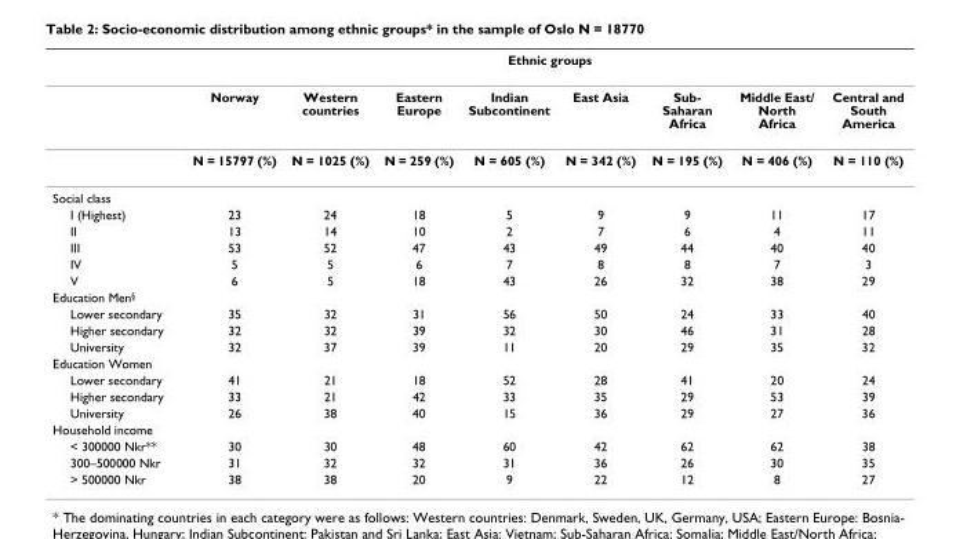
<table><thead><tr><td rowspan="2"></td><td colspan="8">Ethnic groups</td></tr><tr><td>Norway</td><td>Western countries</td><td>Eastern Europe</td><td>Indian Subcontinent</td><td>East Asia</td><td>Sub- Saharan Africa</td><td>Middle East/ North Africa</td><td>Central and South America</td></tr></thead><tbody><tr><td></td><td>N = 15797 (%)</td><td>N = 1025 (%)</td><td>N = 259 (%)</td><td>N = 605 (%)</td><td>N = 342 (%)</td><td>N = 195 (%)</td><td>N = 406 (%)</td><td>N = 110 (%)</td></tr><tr><td colspan="9">Social class</td></tr><tr><td>I (Highest)</td><td>23</td><td>24</td><td>18</td><td>5</td><td>9</td><td>9</td><td>11</td><td>17</td></tr><tr><td>II</td><td>13</td><td>14</td><td>10</td><td>2</td><td>7</td><td>6</td><td>4</td><td>11</td></tr><tr><td>III</td><td>53</td><td>52</td><td>47</td><td>43</td><td>49</td><td>44</td><td>40</td><td>40</td></tr><tr><td>IV</td><td>5</td><td>5</td><td>6</td><td>7</td><td>8</td><td>8</td><td>7</td><td>3</td></tr><tr><td>V</td><td>6</td><td>5</td><td>18</td><td>43</td><td>26</td><td>32</td><td>38</td><td>29</td></tr><tr><td colspan="9">Education Men<sup>§</sup></td></tr><tr><td>Lower secondary</td><td>35</td><td>32</td><td>31</td><td>56</td><td>50</td><td>24</td><td>33</td><td>40</td></tr><tr><td>Higher secondary</td><td>32</td><td>32</td><td>39</td><td>32</td><td>30</td><td>46</td><td>31</td><td>28</td></tr><tr><td>University</td><td>32</td><td>37</td><td>39</td><td>11</td><td>20</td><td>29</td><td>35</td><td>32</td></tr><tr><td colspan="9">Education Women</td></tr><tr><td>Lower secondary</td><td>41</td><td>21</td><td>18</td><td>52</td><td>28</td><td>41</td><td>20</td><td>24</td></tr><tr><td>Higher secondary</td><td>33</td><td>21</td><td>42</td><td>33</td><td>35</td><td>29</td><td>53</td><td>39</td></tr><tr><td>University</td><td>26</td><td>38</td><td>40</td><td>15</td><td>36</td><td>29</td><td>27</td><td>36</td></tr><tr><td colspan="9">Household income</td></tr><tr><td>&lt; 300000 Nkr**</td><td>30</td><td>30</td><td>48</td><td>60</td><td>42</td><td>62</td><td>62</td><td>38</td></tr><tr><td>300–500000 Nkr</td><td>31</td><td>32</td><td>32</td><td>31</td><td>36</td><td>26</td><td>30</td><td>35</td></tr><tr><td>&gt; 500000 Nkr</td><td>38</td><td>38</td><td>20</td><td>9</td><td>22</td><td>12</td><td>8</td><td>27</td></tr></tbody></table>